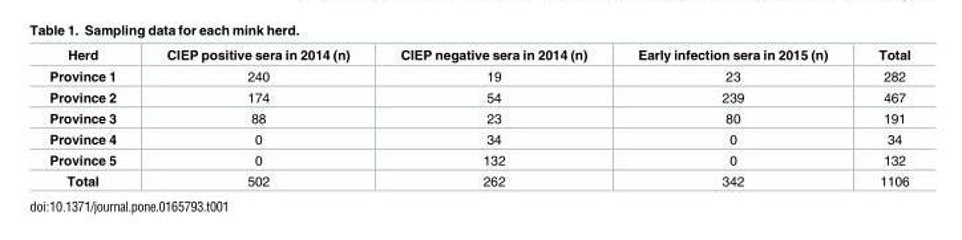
<table><thead><tr><td>Herd</td><td>CIEP positive sera in 2014 (n)</td><td>CIEP negative sera in 2014 (n)</td><td>Early infection sera in 2015 (n)</td><td>Total</td></tr></thead><tbody><tr><td>Province 1</td><td>240</td><td>19</td><td>23</td><td>282</td></tr><tr><td>Province 2</td><td>174</td><td>54</td><td>239</td><td>467</td></tr><tr><td>Province 3</td><td>88</td><td>23</td><td>80</td><td>191</td></tr><tr><td>Province 4</td><td>0</td><td>34</td><td>0</td><td>34</td></tr><tr><td>Province 5</td><td>0</td><td>132</td><td>0</td><td>132</td></tr><tr><td>Total</td><td>502</td><td>262</td><td>342</td><td>1106</td></tr></tbody></table>